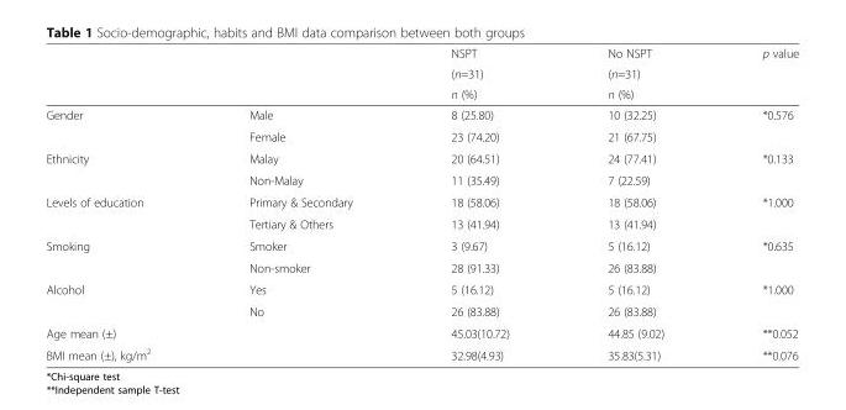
<table><thead><tr><td rowspan="3"></td><td rowspan="3"></td><td rowspan="3">NSPT (n=31) n (%)</td><td rowspan="3">No NSPT (n=31) n (%)</td><td rowspan="3">p value</td></tr><tr></tr><tr></tr></thead><tbody><tr><td rowspan="2">Gender</td><td>Male</td><td>8 (25.80)</td><td>10 (32.25)</td><td rowspan="2">*0.576</td></tr><tr><td>Female</td><td>23 (74.20)</td><td>21 (67.75)</td></tr><tr><td rowspan="2">Ethnicity</td><td>Malay</td><td>20 (64.51)</td><td>24 (77.41)</td><td rowspan="2">*0.133</td></tr><tr><td>Non-Malay</td><td>11 (35.49)</td><td>7 (22.59)</td></tr><tr><td rowspan="2">Levels of education</td><td>Primary &amp; Secondary</td><td>18 (58.06)</td><td>18 (58.06)</td><td rowspan="2">*1.000</td></tr><tr><td>Tertiary &amp; Others</td><td>13 (41.94)</td><td>13 (41.94)</td></tr><tr><td rowspan="2">Smoking</td><td>Smoker</td><td>3 (9.67)</td><td>5 (16.12)</td><td rowspan="2">*0.635</td></tr><tr><td>Non-smoker</td><td>28 (91.33)</td><td>26 (83.88)</td></tr><tr><td rowspan="2">Alcohol</td><td>Yes</td><td>5 (16.12)</td><td>5 (16.12)</td><td rowspan="2">*1.000</td></tr><tr><td>No</td><td>26 (83.88)</td><td>26 (83.88)</td></tr><tr><td>Age mean (±)</td><td></td><td>45.03(10.72)</td><td>44.85 (9.02)</td><td>**0.052</td></tr><tr><td>BMI mean (±), kg/m<sup>2</sup></td><td></td><td>32.98(4.93)</td><td>35.83(5.31)</td><td>**0.076</td></tr></tbody></table>